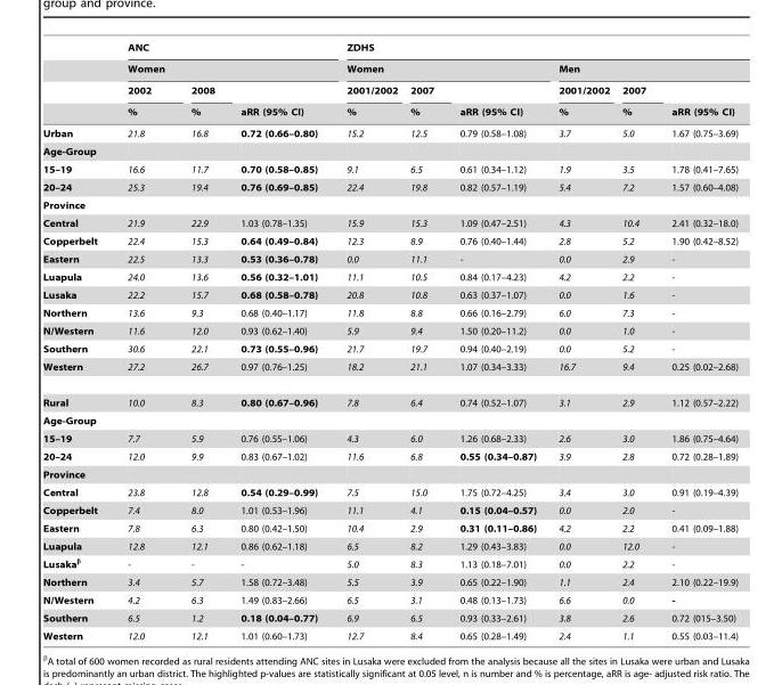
<table><thead><tr><td rowspan="4"></td><td rowspan="2" colspan="3">ANC Women</td><td colspan="6">ZDHS</td></tr><tr><td colspan="3">Women</td><td colspan="3">Men</td></tr><tr><td rowspan="2">2002 %</td><td rowspan="2">2008 %</td><td rowspan="2">aRR (95% CI)</td><td rowspan="2">2001/2002 %</td><td rowspan="2">2007 %</td><td rowspan="2">aRR (95% CI)</td><td rowspan="2">2001/2002 %</td><td rowspan="2">2007 %</td><td rowspan="2">aRR (95% CI)</td></tr><tr></tr></thead><tbody><tr><td>Urban</td><td>21.8</td><td>16.8</td><td>0.72 (0.66–0.80)</td><td>15.2</td><td>12.5</td><td>0.79 (0.58–1.08)</td><td>3.7</td><td>5.0</td><td>1.67 (0.75–3.69)</td></tr><tr><td colspan="10">Age-Group</td></tr><tr><td>15–19</td><td>16.6</td><td>11.7</td><td>0.70 (0.58–0.85)</td><td>9.1</td><td>6.5</td><td>0.61 (0.34–1.12)</td><td>1.9</td><td>3.5</td><td>1.78 (0.41–7.65)</td></tr><tr><td>20–24</td><td>25.3</td><td>19.4</td><td>0.76 (0.69–0.85)</td><td>22.4</td><td>19.8</td><td>0.82 (0.57–1.19)</td><td>5.4</td><td>7.2</td><td>1.57 (0.60–4.08)</td></tr><tr><td colspan="10">Province</td></tr><tr><td>Central</td><td>21.9</td><td>22.9</td><td>1.03 (0.78–1.35)</td><td>15.9</td><td>15.3</td><td>1.09 (0.47–2.51)</td><td>4.3</td><td>10.4</td><td>2.41 (0.32–18.0)</td></tr><tr><td>Copperbelt</td><td>22.4</td><td>15.3</td><td>0.64 (0.49–0.84)</td><td>12.3</td><td>8.9</td><td>0.76 (0.40–1.44)</td><td>2.8</td><td>5.2</td><td>1.90 (0.42–8.52)</td></tr><tr><td>Eastern</td><td>22.5</td><td>13.3</td><td>0.53 (0.36–0.78)</td><td>0.0</td><td>11.1</td><td>-</td><td>0.0</td><td>2.9</td><td>-</td></tr><tr><td>Luapula</td><td>24.0</td><td>13.6</td><td>0.56 (0.32–1.01)</td><td>11.1</td><td>10.5</td><td>0.84 (0.17–4.23)</td><td>4.2</td><td>2.2</td><td>-</td></tr><tr><td>Lusaka</td><td>22.2</td><td>15.7</td><td>0.68 (0.58–0.78)</td><td>20.8</td><td>10.8</td><td>0.63 (0.37–1.07)</td><td>0.0</td><td>1.6</td><td>-</td></tr><tr><td>Northern</td><td>13.6</td><td>9.3</td><td>0.68 (0.40–1.17)</td><td>11.8</td><td>8.8</td><td>0.66 (0.16–2.79)</td><td>6.0</td><td>7.3</td><td>-</td></tr><tr><td>N/Western</td><td>11.6</td><td>12.0</td><td>0.93 (0.62–1.40)</td><td>5.9</td><td>9.4</td><td>1.50 (0.20–11.2)</td><td>0.0</td><td>1.0</td><td>-</td></tr><tr><td>Southern</td><td>30.6</td><td>22.1</td><td>0.73 (0.55–0.96)</td><td>21.7</td><td>19.7</td><td>0.94 (0.40–2.19)</td><td>0.0</td><td>5.2</td><td>-</td></tr><tr><td>Western</td><td>27.2</td><td>26.7</td><td>0.97 (0.76–1.25)</td><td>18.2</td><td>21.1</td><td>1.07 (0.34–3.33)</td><td>16.7</td><td>9.4</td><td>0.25 (0.02–2.68)</td></tr><tr><td>Rural</td><td>10.0</td><td>8.3</td><td>0.80 (0.67–0.96)</td><td>7.8</td><td>6.4</td><td>0.74 (0.52–1.07)</td><td>3.1</td><td>2.9</td><td>1.12 (0.57–2.22)</td></tr><tr><td colspan="10">Age-Group</td></tr><tr><td>15–19</td><td>7.7</td><td>5.9</td><td>0.76 (0.55–1.06)</td><td>4.3</td><td>6.0</td><td>1.26 (0.68–2.33)</td><td>2.6</td><td>3.0</td><td>1.86 (0.75–4.64)</td></tr><tr><td>20–24</td><td>12.0</td><td>9.9</td><td>0.83 (0.67–1.02)</td><td>11.6</td><td>6.8</td><td>0.55 (0.34–0.87)</td><td>3.9</td><td>2.8</td><td>0.72 (0.28–1.89)</td></tr><tr><td colspan="10">Province</td></tr><tr><td>Central</td><td>23.8</td><td>12.8</td><td>0.54 (0.29–0.99)</td><td>7.5</td><td>15.0</td><td>1.75 (0.72–4.25)</td><td>3.4</td><td>3.0</td><td>0.91 (0.19–4.39)</td></tr><tr><td>Copperbelt</td><td>7.4</td><td>8.0</td><td>1.01 (0.53–1.96)</td><td>11.1</td><td>4.1</td><td>0.15 (0.04–0.57)</td><td>0.0</td><td>2.0</td><td>-</td></tr><tr><td>Eastern</td><td>7.8</td><td>6.3</td><td>0.80 (0.42–1.50)</td><td>10.4</td><td>2.9</td><td>0.31 (0.11–0.86)</td><td>4.2</td><td>2.2</td><td>0.41 (0.09–1.88)</td></tr><tr><td>Luapula</td><td>12.8</td><td>12.1</td><td>0.86 (0.62–1.18)</td><td>6.5</td><td>8.2</td><td>1.29 (0.43–3.83)</td><td>0.0</td><td>12.0</td><td>-</td></tr><tr><td>Lusakaβ</td><td>-</td><td>-</td><td>-</td><td>5.0</td><td>8.3</td><td>1.13 (0.18–7.01)</td><td>0.0</td><td>2.2</td><td>-</td></tr><tr><td>Northern</td><td>3.4</td><td>5.7</td><td>1.58 (0.72–3.48)</td><td>5.5</td><td>3.9</td><td>0.65 (0.22–1.90)</td><td>1.1</td><td>2.4</td><td>2.10 (0.22–19.9)</td></tr><tr><td>N/Western</td><td>4.2</td><td>6.3</td><td>1.49 (0.83–2.66)</td><td>6.5</td><td>3.1</td><td>0.48 (0.13–1.73)</td><td>6.6</td><td>0.0</td><td>-</td></tr><tr><td>Southern</td><td>6.5</td><td>1.2</td><td>0.18 (0.04–0.77)</td><td>6.9</td><td>6.5</td><td>0.93 (0.33–2.61)</td><td>3.8</td><td>2.6</td><td>0.72 (015–3.50)</td></tr><tr><td>Western</td><td>12.0</td><td>12.1</td><td>1.01 (0.60–1.73)</td><td>12.7</td><td>8.4</td><td>0.65 (0.28–1.49)</td><td>2.4</td><td>1.1</td><td>0.55 (0.03–11.4)</td></tr></tbody></table>